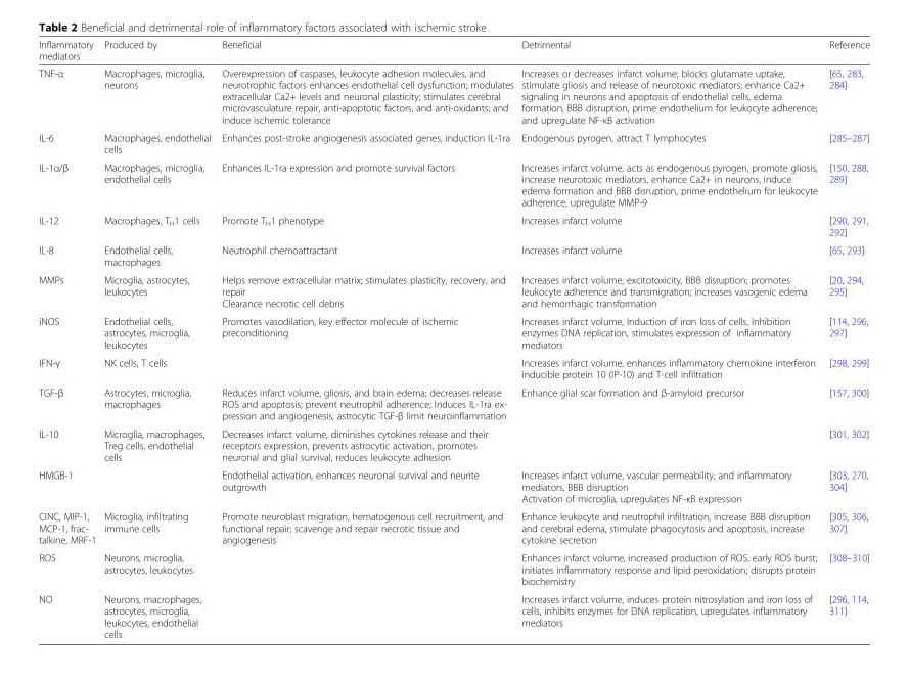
<table><thead><tr><td>Inflammatory mediators</td><td>Produced by</td><td>Beneficial</td><td>Detrimental</td><td>Reference</td></tr></thead><tbody><tr><td>TNF-α</td><td>Macrophages, microglia, neurons</td><td>Overexpression of caspases, leukocyte adhesion molecules, and neurotrophic factors enhances endothelial cell dysfunction; modulates extracellular Ca2+ levels and neuronal plasticity; stimulates cerebral microvasculature repair, anti-apoptotic factors, and anti-oxidants; and induce ischemic tolerance</td><td>Increases or decreases infarct volume; blocks glutamate uptake, stimulate gliosis and release of neurotoxic mediators; enhance Ca2+ signaling in neurons and apoptosis of endothelial cells, edema formation, BBB disruption, prime endothelium for leukocyte adherence; and upregulate NF-ĸB activation</td><td>[65, 283, 284]</td></tr><tr><td>IL-6</td><td>Macrophages, endothelial cells</td><td>Enhances post-stroke angiogenesis associated genes, induction IL-1ra</td><td>Endogenous pyrogen, attract T lymphocytes</td><td>[285–287]</td></tr><tr><td>IL-1α/β</td><td>Macrophages, microglia, endothelial cells</td><td>Enhances IL-1ra expression and promote survival factors</td><td>Increases infarct volume, acts as endogenous pyrogen, promote gliosis, increase neurotoxic mediators, enhance Ca2+ in neurons, induce edema formation and BBB disruption, prime endothelium for leukocyte adherence, upregulate MMP-9</td><td>[150, 288, 289]</td></tr><tr><td>IL-12</td><td>Macrophages, T<sub>H</sub>1 cells</td><td>Promote T<sub>H</sub>1 phenotype</td><td>Increases infarct volume</td><td>[290, 291, 292]</td></tr><tr><td>IL-8</td><td>Endothelial cells, macrophages</td><td>Neutrophil chemoattractant</td><td>Increases infarct volume</td><td>[65, 293]</td></tr><tr><td>MMPs</td><td>Microglia, astrocytes, leukocytes</td><td>Helps remove extracellular matrix; stimulates plasticity, recovery, and repair Clearance necrotic cell debris</td><td>Increases infarct volume, excitotoxicity, BBB disruption; promotes leukocyte adherence and transmigration; increases vasogenic edema and hemorrhagic transformation</td><td>[20, 294, 295]</td></tr><tr><td>iNOS</td><td>Endothelial cells, astrocytes, microglia, leukocytes</td><td>Promotes vasodilation, key effector molecule of ischemic preconditioning</td><td>Increases infarct volume, Induction of iron loss of cells, Inhibition enzymes DNA replication, stimulates expression of inflammatory mediators</td><td>[114, 296, 297]</td></tr><tr><td>IFN-γ</td><td>NK cells, T cells</td><td></td><td>Increases infarct volume, enhances inflammatory chemokine interferon inducible protein 10 (IP-10) and T-cell infiltration</td><td>[298, 299]</td></tr><tr><td>TGF-β</td><td>Astrocytes, microglia, macrophages</td><td>Reduces infarct volume, gliosis, and brain edema; decreases release ROS and apoptosis; prevent neutrophil adherence; Induces IL-1ra ex- pression and angiogenesis, astrocytic TGF-β limit neuroinflammation</td><td>Enhance glial scar formation and β-amyloid precursor</td><td>[157, 300]</td></tr><tr><td>IL-10</td><td>Microglia, macrophages, Treg cells, endothelial cells</td><td>Decreases infarct volume, diminishes cytokines release and their receptors expression, prevents astrocytic activation, promotes neuronal and glial survival, reduces leukocyte adhesion</td><td></td><td>[301, 302]</td></tr><tr><td>HMGB-1</td><td></td><td>Endothelial activation, enhances neuronal survival and neurite outgrowth</td><td>Increases infarct volume, vascular permeability, and inflammatory mediators, BBB disruption Activation of microglia, upregulates NF-ĸB expression</td><td>[303, 270, 304]</td></tr><tr><td>CINC, MIP-1, MCP-1, frac- talkine, MRF-1</td><td>Microglia, infiltrating immune cells</td><td>Promote neuroblast migration, hematogenous cell recruitment, and functional repair; scavenge and repair necrotic tissue and angiogenesis</td><td>Enhance leukocyte and neutrophil infiltration, increase BBB disruption and cerebral edema, stimulate phagocytosis and apoptosis, increase cytokine secretion</td><td>[305, 306, 307]</td></tr><tr><td>ROS</td><td>Neurons, microglia, astrocytes, leukocytes</td><td></td><td>Enhances infarct volume, increased production of ROS, early ROS burst; initiates inflammatory response and lipid peroxidation; disrupts protein biochemistry</td><td>[308–310]</td></tr><tr><td>NO</td><td>Neurons, macrophages, astrocytes, microglia, leukocytes, endothelial cells</td><td></td><td>Increases infarct volume, induces protein nitrosylation and iron loss of cells, inhibits enzymes for DNA replication, upregulates inflammatory mediators</td><td>[296, 114, 311]</td></tr></tbody></table>